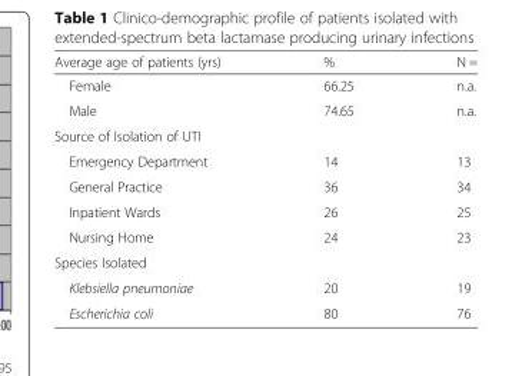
<table><thead><tr><td>Average age of patients (yrs)</td><td>%</td><td>N =</td></tr></thead><tbody><tr><td>Female</td><td>66.25</td><td>n.a.</td></tr><tr><td>Male</td><td>74.65</td><td>n.a.</td></tr><tr><td colspan="3">Source of Isolation of UTI</td></tr><tr><td>Emergency Department</td><td>14</td><td>13</td></tr><tr><td>General Practice</td><td>36</td><td>34</td></tr><tr><td>Inpatient Wards</td><td>26</td><td>25</td></tr><tr><td>Nursing Home</td><td>24</td><td>23</td></tr><tr><td colspan="3">Species Isolated</td></tr><tr><td>Klebsiella pneumoniae</td><td>20</td><td>19</td></tr><tr><td>Escherichia coli</td><td>80</td><td>76</td></tr></tbody></table>